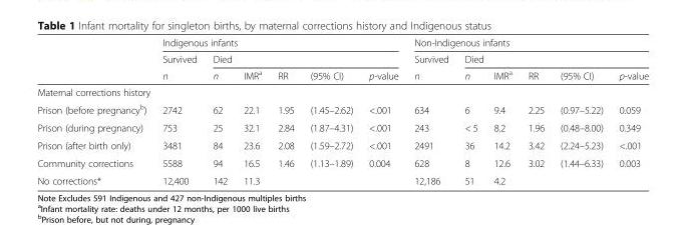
<table><thead><tr><td rowspan="3"></td><td colspan="6">Indigenous infants</td><td colspan="6">Non-Indigenous infants</td></tr><tr><td rowspan="2">Survived n</td><td colspan="5">Died</td><td rowspan="2">Survived n</td><td colspan="5">Died</td></tr><tr><td>n</td><td>IMR<sup>a</sup></td><td>RR</td><td>(95% CI)</td><td>p-value</td><td>n</td><td>IMR<sup>a</sup></td><td>RR</td><td>(95% CI)</td><td>p-value</td></tr></thead><tbody><tr><td colspan="13">Maternal corrections history</td></tr><tr><td>Prison (before pregnancy<sup>b</sup>)</td><td>2742</td><td>62</td><td>22.1</td><td>1.95</td><td>(1.45–2.62)</td><td>&lt;.001</td><td>634</td><td>6</td><td>9.4</td><td>2.25</td><td>(0.97–5.22)</td><td>0.059</td></tr><tr><td>Prison (during pregnancy)</td><td>753</td><td>25</td><td>32.1</td><td>2.84</td><td>(1.87–4.31)</td><td>&lt;.001</td><td>243</td><td>&lt; 5</td><td>8.2</td><td>1.96</td><td>(0.48–8.00)</td><td>0.349</td></tr><tr><td>Prison (after birth only)</td><td>3481</td><td>84</td><td>23.6</td><td>2.08</td><td>(1.59–2.72)</td><td>&lt;.001</td><td>2491</td><td>36</td><td>14.2</td><td>3.42</td><td>(2.24–5.23)</td><td>&lt;.001</td></tr><tr><td>Community corrections</td><td>5588</td><td>94</td><td>16.5</td><td>1.46</td><td>(1.13–1.89)</td><td>0.004</td><td>628</td><td>8</td><td>12.6</td><td>3.02</td><td>(1.44–6.33)</td><td>0.003</td></tr><tr><td>No corrections*</td><td>12,400</td><td>142</td><td>11.3</td><td></td><td></td><td></td><td>12,186</td><td>51</td><td>4.2</td><td></td><td></td><td></td></tr></tbody></table>